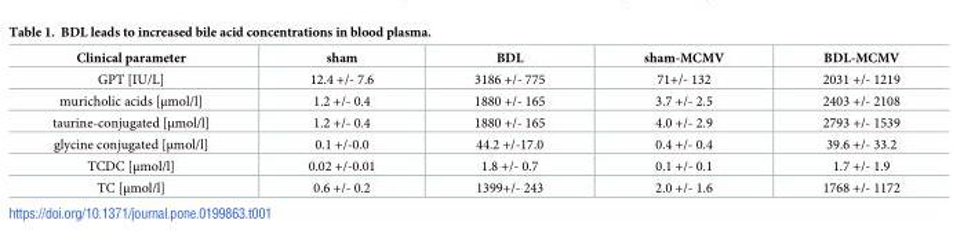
<table><thead><tr><td>Clinical parameter</td><td>sham</td><td>BDL</td><td>sham-MCMV</td><td>BDL-MCMV</td></tr></thead><tbody><tr><td>GPT [IU/L]</td><td>12.4 +/- 7.6</td><td>3186 +/- 775</td><td>71+/- 132</td><td>2031 +/- 1219</td></tr><tr><td>muricholic acids [μmol/l]</td><td>1.2 +/- 0.4</td><td>1880 +/- 165</td><td>3.7 +/- 2.5</td><td>2403 +/- 2108</td></tr><tr><td>taurine-conjugated [μmol/l]</td><td>1.2 +/- 0.4</td><td>1880 +/- 165</td><td>4.0 +/- 2.9</td><td>2793 +/- 1539</td></tr><tr><td>glycine conjugated [μmol/l]</td><td>0.1 +/-0.0</td><td>44.2 +/-17.0</td><td>0.4 +/- 0.4</td><td>39.6 +/- 33.2</td></tr><tr><td>TCDC [μmol/l]</td><td>0.02 +/-0.01</td><td>1.8 +/- 0.7</td><td>0.1 +/- 0.1</td><td>1.7 +/- 1.9</td></tr><tr><td>TC [μmol/l]</td><td>0.6 +/- 0.2</td><td>1399+/- 243</td><td>2.0 +/- 1.6</td><td>1768 +/- 1172</td></tr></tbody></table>